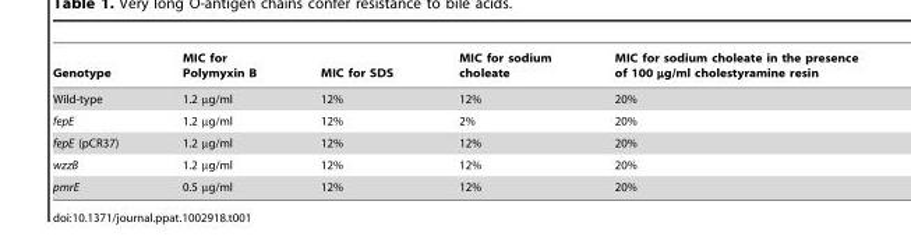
<table><thead><tr><td>Genotype</td><td>MIC for Polymyxin B</td><td>MIC for SDS</td><td>MIC for sodium choleate</td><td>MIC for sodium choleate in the presence of 100 µg/ml cholestyramine resin</td></tr></thead><tbody><tr><td>Wild-type</td><td>1.2 µg/ml</td><td>12%</td><td>12%</td><td>20%</td></tr><tr><td>fepE</td><td>1.2 µg/ml</td><td>12%</td><td>2%</td><td>20%</td></tr><tr><td>fepE (pCR37)</td><td>1.2 µg/ml</td><td>12%</td><td>12%</td><td>20%</td></tr><tr><td>wzzB</td><td>1.2 µg/ml</td><td>12%</td><td>12%</td><td>20%</td></tr><tr><td>pmrE</td><td>0.5 µg/ml</td><td>12%</td><td>12%</td><td>20%</td></tr></tbody></table>